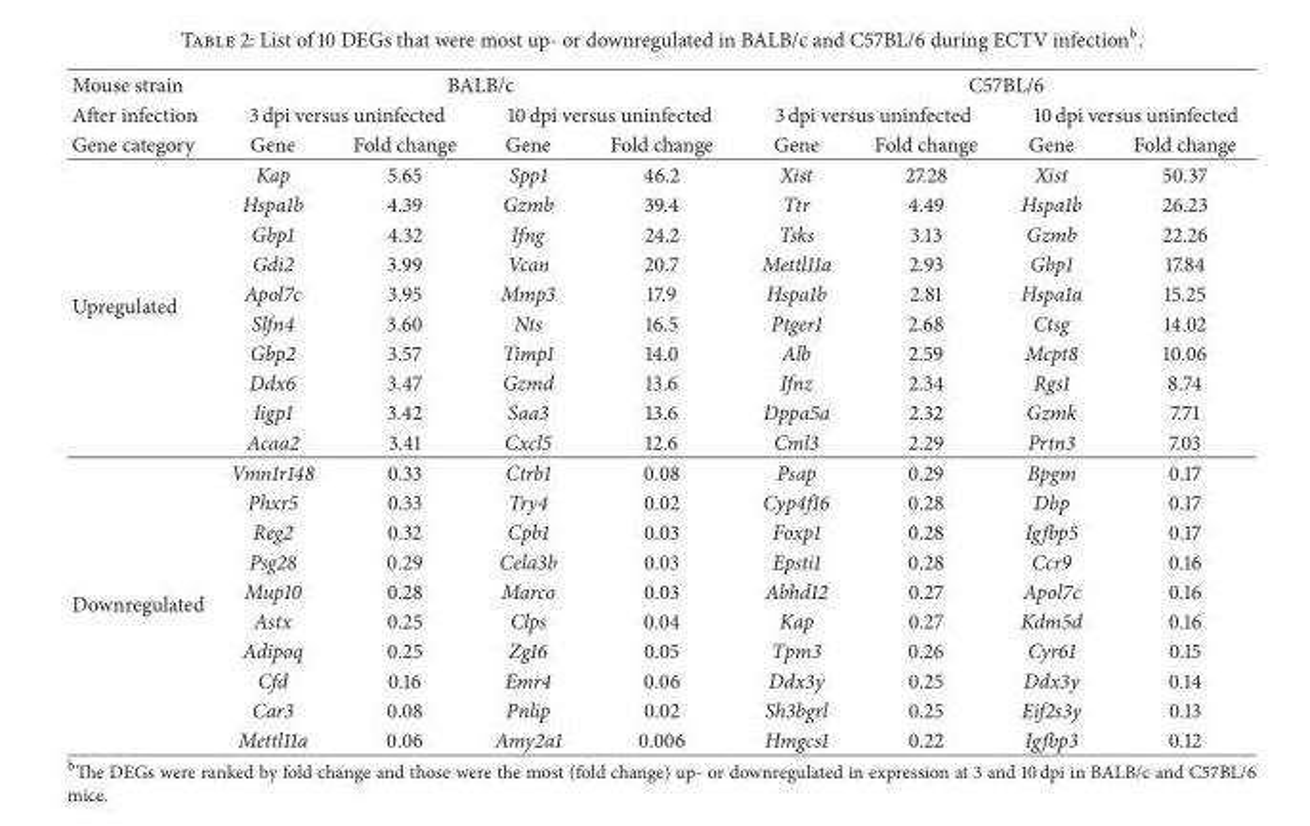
<table><thead><tr><td rowspan="3">Mouse strain After infection Gene category</td><td colspan="4">BALB/c</td><td colspan="4">C57BL/6</td></tr><tr><td colspan="2">3 dpi versus uninfected</td><td colspan="2">10 dpi versus uninfected</td><td colspan="2">3 dpi versus uninfected</td><td colspan="2">10 dpi versus uninfected</td></tr><tr><td>Gene</td><td>Fold change</td><td>Gene</td><td>Fold change</td><td>Gene</td><td>Fold change</td><td>Gene</td><td>Fold change</td></tr></thead><tbody><tr><td rowspan="10">Upregulated</td><td>Kap</td><td>5.65</td><td>Spp1</td><td>46.2</td><td>Xist</td><td>27.28</td><td>Xist</td><td>50.37</td></tr><tr><td>Hspa1b</td><td>4.39</td><td>Gzmb</td><td>39.4</td><td>Ttr</td><td>4.49</td><td>Hspa1b</td><td>26.23</td></tr><tr><td>Gbp1</td><td>4.32</td><td>Ifng</td><td>24.2</td><td>Tsks</td><td>3.13</td><td>Gzmb</td><td>22.26</td></tr><tr><td>Gdi2</td><td>3.99</td><td>Vcan</td><td>20.7</td><td>Mettl11a</td><td>2.93</td><td>Gbp1</td><td>17.84</td></tr><tr><td>Apol7c</td><td>3.95</td><td>Mmp3</td><td>17.9</td><td>Hspa1b</td><td>2.81</td><td>Hspa1a</td><td>15.25</td></tr><tr><td>Slfn4</td><td>3.60</td><td>Nts</td><td>16.5</td><td>Ptger1</td><td>2.68</td><td>Ctsg</td><td>14.02</td></tr><tr><td>Gbp2</td><td>3.57</td><td>Timp1</td><td>14.0</td><td>Alb</td><td>2.59</td><td>Mcpt8</td><td>10.06</td></tr><tr><td>Ddx6</td><td>3.47</td><td>Gzmd</td><td>13.6</td><td>Ifnz</td><td>2.34</td><td>Rgs1</td><td>8.74</td></tr><tr><td>Iigp1</td><td>3.42</td><td>Saa3</td><td>13.6</td><td>Dppa5a</td><td>2.32</td><td>Gzmk</td><td>7.71</td></tr><tr><td>Acaa2</td><td>3.41</td><td>Cxcl5</td><td>12.6</td><td>Cml3</td><td>2.29</td><td>Prtn3</td><td>7.03</td></tr><tr><td rowspan="10">Downregulated</td><td>Vmn1r148</td><td>0.33</td><td>Ctrb1</td><td>0.08</td><td>Psap</td><td>0.29</td><td>Bpgm</td><td>0.17</td></tr><tr><td>Phxr5</td><td>0.33</td><td>Try4</td><td>0.02</td><td>Cyp4f16</td><td>0.28</td><td>Dbp</td><td>0.17</td></tr><tr><td>Reg2</td><td>0.32</td><td>Cpb1</td><td>0.03</td><td>Foxp1</td><td>0.28</td><td>Igfbp5</td><td>0.17</td></tr><tr><td>Psg28</td><td>0.29</td><td>Cela3b</td><td>0.03</td><td>Epsti1</td><td>0.28</td><td>Ccr9</td><td>0.16</td></tr><tr><td>Mup10</td><td>0.28</td><td>Marco</td><td>0.03</td><td>Abhd12</td><td>0.27</td><td>Apol7c</td><td>0.16</td></tr><tr><td>Astx</td><td>0.25</td><td>Clps</td><td>0.04</td><td>Kap</td><td>0.27</td><td>Kdm5d</td><td>0.16</td></tr><tr><td>Adipoq</td><td>0.25</td><td>Zg16</td><td>0.05</td><td>Tpm3</td><td>0.26</td><td>Cyr61</td><td>0.15</td></tr><tr><td>Cfd</td><td>0.16</td><td>Emr4</td><td>0.06</td><td>Ddx3y</td><td>0.25</td><td>Ddx3y</td><td>0.14</td></tr><tr><td>Car3</td><td>0.08</td><td>Pnlip</td><td>0.02</td><td>Sh3bgrl</td><td>0.25</td><td>Eif2s3y</td><td>0.13</td></tr><tr><td>Mettl11a</td><td>0.06</td><td>Amy2a1</td><td>0.006</td><td>Hmgcs1</td><td>0.22</td><td>Igfbp3</td><td>0.12</td></tr></tbody></table>